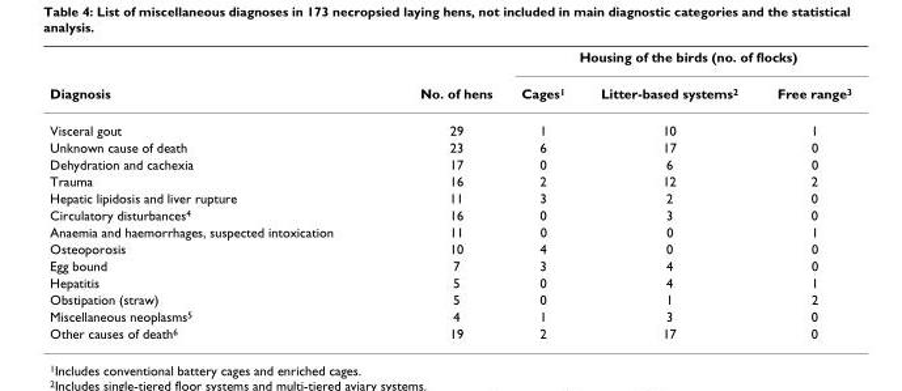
<table><thead><tr><td rowspan="2">Diagnosis</td><td rowspan="2">No. of hens</td><td colspan="3">Housing of the birds (no. of flocks)</td></tr><tr><td>Cages<sup>1</sup></td><td>Litter-based systems<sup>2</sup></td><td>Free range<sup>3</sup></td></tr></thead><tbody><tr><td>Visceral gout</td><td>29</td><td>1</td><td>10</td><td>1</td></tr><tr><td>Unknown cause of death</td><td>23</td><td>6</td><td>17</td><td>0</td></tr><tr><td>Dehydration and cachexia</td><td>17</td><td>0</td><td>6</td><td>0</td></tr><tr><td>Trauma</td><td>16</td><td>2</td><td>12</td><td>2</td></tr><tr><td>Hepatic lipidosis and liver rupture</td><td>11</td><td>3</td><td>2</td><td>0</td></tr><tr><td>Circulatory disturbances<sup>4</sup></td><td>16</td><td>0</td><td>3</td><td>0</td></tr><tr><td>Anaemia and haemorrhages, suspected intoxication</td><td>11</td><td>0</td><td>0</td><td>1</td></tr><tr><td>Osteoporosis</td><td>10</td><td>4</td><td>0</td><td>0</td></tr><tr><td>Egg bound</td><td>7</td><td>3</td><td>4</td><td>0</td></tr><tr><td>Hepatitis</td><td>5</td><td>0</td><td>4</td><td>1</td></tr><tr><td>Obstipation (straw)</td><td>5</td><td>0</td><td>1</td><td>2</td></tr><tr><td>Miscellaneous neoplasms<sup>5</sup></td><td>4</td><td>1</td><td>3</td><td>0</td></tr><tr><td>Other causes of death<sup>6</sup></td><td>19</td><td>2</td><td>17</td><td>0</td></tr></tbody></table>